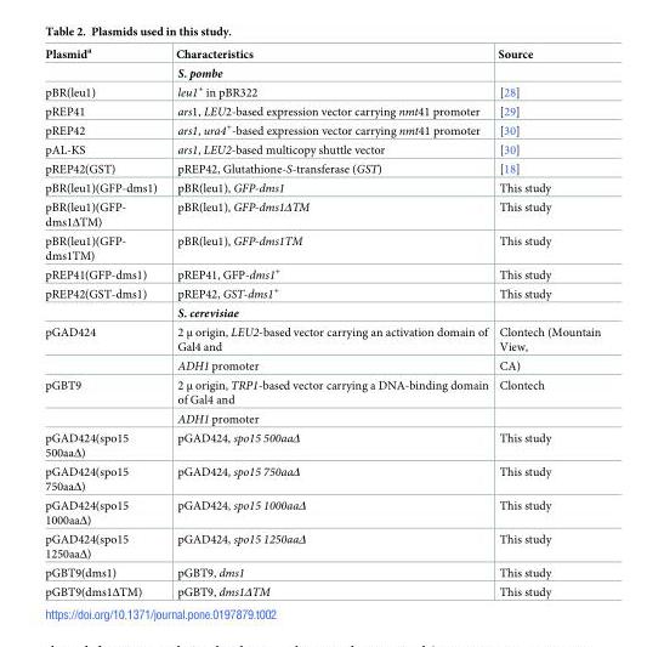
<table><thead><tr><td>Plasmid<sup>a</sup></td><td>Characteristics</td><td>Source</td></tr></thead><tbody><tr><td></td><td>S. pombe</td><td></td></tr><tr><td>pBR(leu1)</td><td>leu1<sup>+</sup> in pBR322</td><td>[28]</td></tr><tr><td>pREP41</td><td>ars1, LEU2-based expression vector carrying nmt41 promoter</td><td>[29]</td></tr><tr><td>pREP42</td><td>ars1, ura4<sup>+</sup>-based expression vector carrying nmt41 promoter</td><td>[30]</td></tr><tr><td>pAL-KS</td><td>ars1, LEU2-based multicopy shuttle vector</td><td>[30]</td></tr><tr><td>pREP42(GST)</td><td>pREP42, Glutathione-S-transferase (GST)</td><td>[18]</td></tr><tr><td>pBR(leu1)(GFP-dms1)</td><td>pBR(leu1), GFP-dms1</td><td>This study</td></tr><tr><td>pBR(leu1)(GFP- dms1ΔTM)</td><td>pBR(leu1), GFP-dms1ΔTM</td><td>This study</td></tr><tr><td>pBR(leu1)(GFP- dms1TM)</td><td>pBR(leu1), GFP-dms1TM</td><td>This study</td></tr><tr><td>pREP41(GFP-dms1)</td><td>pREP41, GFP-dms1<sup>+</sup></td><td>This study</td></tr><tr><td rowspan="2">pREP42(GST-dms1)</td><td>pREP42, GST-dms1<sup>+</sup></td><td>This study</td></tr><tr><td>S. cerevisiae</td><td></td></tr><tr><td rowspan="2">pGAD424</td><td>2 μ origin, LEU2-based vector carrying an activation domain of Gal4 and</td><td>Clontech (Mountain View,</td></tr><tr><td>ADH1 promoter</td><td>CA)</td></tr><tr><td rowspan="2">pGBT9</td><td>2 μ origin, TRP1-based vector carrying a DNA-binding domain of Gal4 and</td><td>Clontech</td></tr><tr><td>ADH1 promoter</td><td></td></tr><tr><td>pGAD424(spo15 500aaΔ)</td><td>pGAD424, spo15 500aaΔ</td><td>This study</td></tr><tr><td>pGAD424(spo15 750aaΔ)</td><td>pGAD424, spo15 750aaΔ</td><td>This study</td></tr><tr><td>pGAD424(spo15 1000aaΔ)</td><td>pGAD424, spo15 1000aaΔ</td><td>This study</td></tr><tr><td>pGAD424(spo15 1250aaΔ)</td><td>pGAD424, spo15 1250aaΔ</td><td>This study</td></tr><tr><td>pGBT9(dms1)</td><td>pGBT9, dms1</td><td>This study</td></tr><tr><td>pGBT9(dms1ΔTM)</td><td>pGBT9, dms1ΔTM</td><td>This study</td></tr></tbody></table>